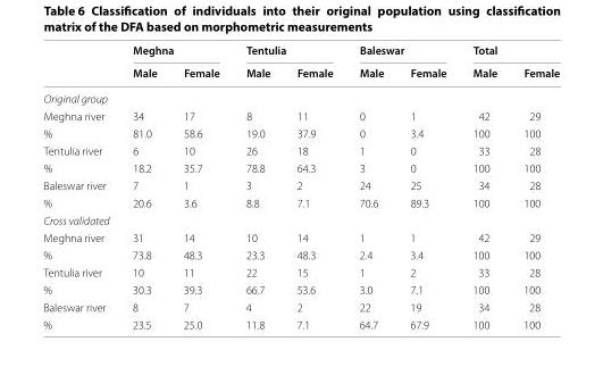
<table><thead><tr><td rowspan="2"></td><td colspan="2">Meghna</td><td colspan="2">Tentulia</td><td colspan="2">Baleswar</td><td colspan="2">Total</td></tr><tr><td>Male</td><td>Female</td><td>Male</td><td>Female</td><td>Male</td><td>Female</td><td>Male</td><td>Female</td></tr></thead><tbody><tr><td colspan="9">Original group</td></tr><tr><td>Meghna river</td><td>34</td><td>17</td><td>8</td><td>11</td><td>0</td><td>1</td><td>42</td><td>29</td></tr><tr><td>%</td><td>81.0</td><td>58.6</td><td>19.0</td><td>37.9</td><td>0</td><td>3.4</td><td>100</td><td>100</td></tr><tr><td>Tentulia river</td><td>6</td><td>10</td><td>26</td><td>18</td><td>1</td><td>0</td><td>33</td><td>28</td></tr><tr><td>%</td><td>18.2</td><td>35.7</td><td>78.8</td><td>64.3</td><td>3</td><td>0</td><td>100</td><td>100</td></tr><tr><td>Baleswar river</td><td>7</td><td>1</td><td>3</td><td>2</td><td>24</td><td>25</td><td>34</td><td>28</td></tr><tr><td>%</td><td>20.6</td><td>3.6</td><td>8.8</td><td>7.1</td><td>70.6</td><td>89.3</td><td>100</td><td>100</td></tr><tr><td colspan="9">Cross validated</td></tr><tr><td>Meghna river</td><td>31</td><td>14</td><td>10</td><td>14</td><td>1</td><td>1</td><td>42</td><td>29</td></tr><tr><td>%</td><td>73.8</td><td>48.3</td><td>23.3</td><td>48.3</td><td>2.4</td><td>3.4</td><td>100</td><td>100</td></tr><tr><td>Tentulia river</td><td>10</td><td>11</td><td>22</td><td>15</td><td>1</td><td>2</td><td>33</td><td>28</td></tr><tr><td>%</td><td>30.3</td><td>39.3</td><td>66.7</td><td>53.6</td><td>3.0</td><td>7.1</td><td>100</td><td>100</td></tr><tr><td>Baleswar river</td><td>8</td><td>7</td><td>4</td><td>2</td><td>22</td><td>19</td><td>34</td><td>28</td></tr><tr><td>%</td><td>23.5</td><td>25.0</td><td>11.8</td><td>7.1</td><td>64.7</td><td>67.9</td><td>100</td><td>100</td></tr></tbody></table>